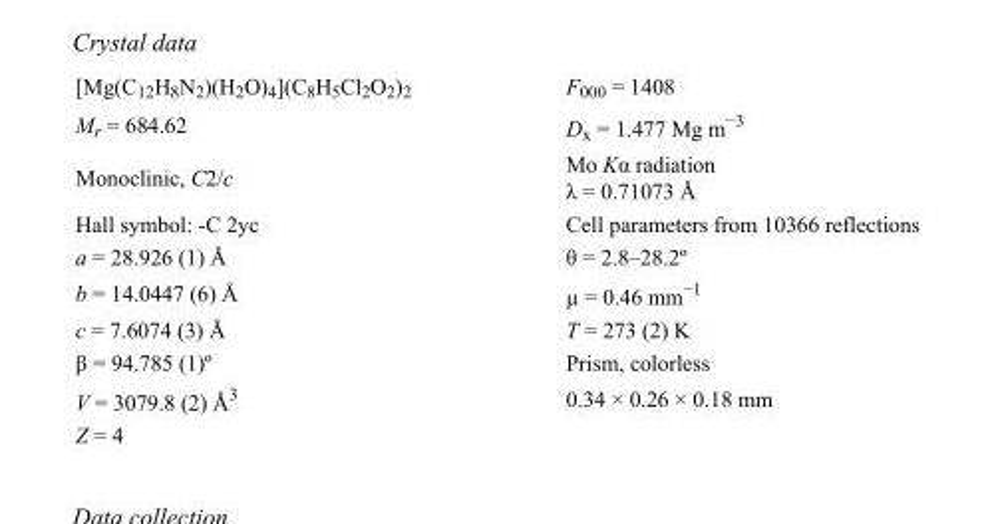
<table><tbody><tr><td>[Mg(C<sub>12</sub>H<sub>8</sub>N<sub>2</sub>)(H<sub>2</sub>O)<sub>4</sub>](C<sub>8</sub>H<sub>5</sub>Cl<sub>2</sub>O<sub>2</sub>)<sub>2</sub></td><td>F<sub>000</sub> = 1408</td></tr><tr><td>M<sub>r</sub> = 684.62</td><td>D<sub>x</sub> = 1.477 Mg m<sup>−3</sup></td></tr><tr><td>Monoclinic, C2/c</td><td>Mo Kα radiation λ = 0.71073 Å</td></tr><tr><td>Hall symbol: -C 2yc</td><td>Cell parameters from 10366 reflections</td></tr><tr><td>a = 28.926 (1) Å</td><td>θ = 2.8–28.2º</td></tr><tr><td>b = 14.0447 (6) Å</td><td>µ = 0.46 mm<sup>−1</sup></td></tr><tr><td>c = 7.6074 (3) Å</td><td>T = 273 (2) K</td></tr><tr><td>β = 94.785 (1)º</td><td>Prism, colorless</td></tr><tr><td>V = 3079.8 (2) Å<sup>3</sup></td><td>0.34 × 0.26 × 0.18 mm</td></tr><tr><td>Z = 4</td><td></td></tr></tbody></table>